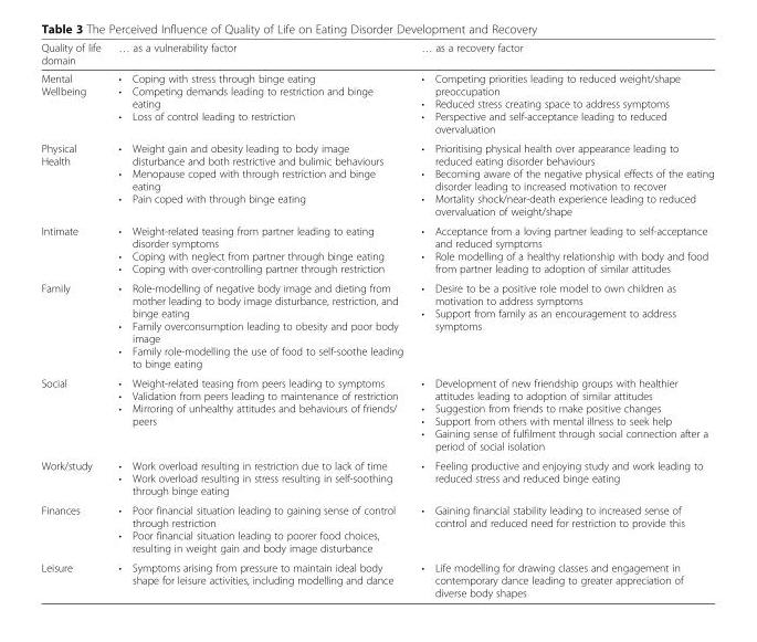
<table><thead><tr><td>Quality of life domain</td><td>… as a vulnerability factor</td><td>… as a recovery factor</td></tr></thead><tbody><tr><td>Mental Wellbeing</td><td>• Coping with stress through binge eating • Competing demands leading to restriction and binge eating • Loss of control leading to restriction</td><td>• Competing priorities leading to reduced weight/shape preoccupation • Reduced stress creating space to address symptoms • Perspective and self-acceptance leading to reduced overvaluation</td></tr><tr><td>Physical Health</td><td>• Weight gain and obesity leading to body image disturbance and both restrictive and bulimic behaviours • Menopause coped with through restriction and binge eating • Pain coped with through binge eating</td><td>• Prioritising physical health over appearance leading to reduced eating disorder behaviours • Becoming aware of the negative physical effects of the eating disorder leading to increased motivation to recover • Mortality shock/near-death experience leading to reduced overvaluation of weight/shape</td></tr><tr><td>Intimate</td><td>• Weight-related teasing from partner leading to eating disorder symptoms • Coping with neglect from partner through binge eating • Coping with over-controlling partner through restriction</td><td>• Acceptance from a loving partner leading to self-acceptance and reduced symptoms • Role modelling of a healthy relationship with body and food from partner leading to adoption of similar attitudes</td></tr><tr><td>Family</td><td>• Role-modelling of negative body image and dieting from mother leading to body image disturbance, restriction, and binge eating • Family overconsumption leading to obesity and poor body image • Family role-modelling the use of food to self-soothe leading to binge eating</td><td>• Desire to be a positive role model to own children as motivation to address symptoms • Support from family as an encouragement to address symptoms</td></tr><tr><td>Social</td><td>• Weight-related teasing from peers leading to symptoms • Validation from peers leading to maintenance of restriction • Mirroring of unhealthy attitudes and behaviours of friends/ peers</td><td>• Development of new friendship groups with healthier attitudes leading to adoption of similar attitudes • Suggestion from friends to make positive changes • Support from others with mental illness to seek help • Gaining sense of fulfilment through social connection after a period of social isolation</td></tr><tr><td>Work/study</td><td>• Work overload resulting in restriction due to lack of time • Work overload resulting in stress resulting in self-soothing through binge eating</td><td>• Feeling productive and enjoying study and work leading to reduced stress and reduced binge eating</td></tr><tr><td>Finances</td><td>• Poor financial situation leading to gaining sense of control through restriction • Poor financial situation leading to poorer food choices, resulting in weight gain and body image disturbance</td><td>• Gaining financial stability leading to increased sense of control and reduced need for restriction to provide this</td></tr><tr><td>Leisure</td><td>• Symptoms arising from pressure to maintain ideal body shape for leisure activities, including modelling and dance</td><td>• Life modelling for drawing classes and engagement in contemporary dance leading to greater appreciation of diverse body shapes</td></tr></tbody></table>